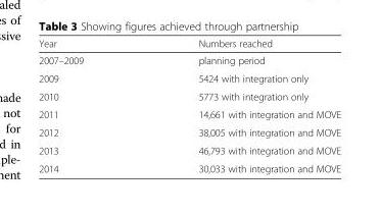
<table><thead><tr><td>Year</td><td>Numbers reached</td></tr></thead><tbody><tr><td>2007–2009</td><td>planning period</td></tr><tr><td>2009</td><td>5424 with integration only</td></tr><tr><td>2010</td><td>5773 with integration only</td></tr><tr><td>2011</td><td>14,661 with integration and MOVE</td></tr><tr><td>2012</td><td>38,005 with integration and MOVE</td></tr><tr><td>2013</td><td>46,793 with integration and MOVE</td></tr><tr><td>2014</td><td>30,033 with integration and MOVE</td></tr></tbody></table>